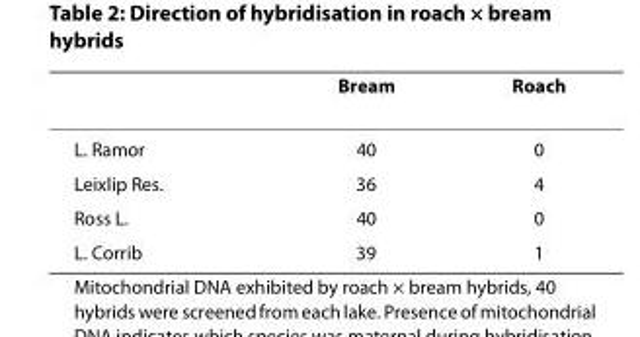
<table><thead><tr><td></td><td>Bream</td><td>Roach</td></tr></thead><tbody><tr><td>L. Ramor</td><td>40</td><td>0</td></tr><tr><td>Leixlip Res.</td><td>36</td><td>4</td></tr><tr><td>Ross L.</td><td>40</td><td>0</td></tr><tr><td>L. Corrib</td><td>39</td><td>1</td></tr></tbody></table>